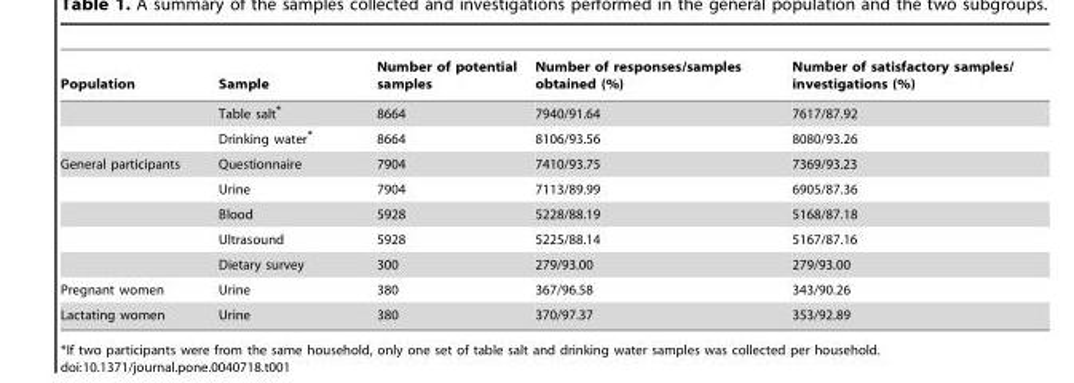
<table><thead><tr><td>Population</td><td>Sample</td><td>Number of potential samples</td><td>Number of responses/samples obtained (%)</td><td>Number of satisfactory samples/ investigations (%)</td></tr></thead><tbody><tr><td></td><td>Table salt*</td><td>8664</td><td>7940/91.64</td><td>7617/87.92</td></tr><tr><td></td><td>Drinking water*</td><td>8664</td><td>8106/93.56</td><td>8080/93.26</td></tr><tr><td rowspan="5">General participants</td><td>Questionnaire</td><td>7904</td><td>7410/93.75</td><td>7369/93.23</td></tr><tr><td>Urine</td><td>7904</td><td>7113/89.99</td><td>6905/87.36</td></tr><tr><td>Blood</td><td>5928</td><td>5228/88.19</td><td>5168/87.18</td></tr><tr><td>Ultrasound</td><td>5928</td><td>5225/88.14</td><td>5167/87.16</td></tr><tr><td>Dietary survey</td><td>300</td><td>279/93.00</td><td>279/93.00</td></tr><tr><td>Pregnant women</td><td>Urine</td><td>380</td><td>367/96.58</td><td>343/90.26</td></tr><tr><td>Lactating women</td><td>Urine</td><td>380</td><td>370/97.37</td><td>353/92.89</td></tr></tbody></table>